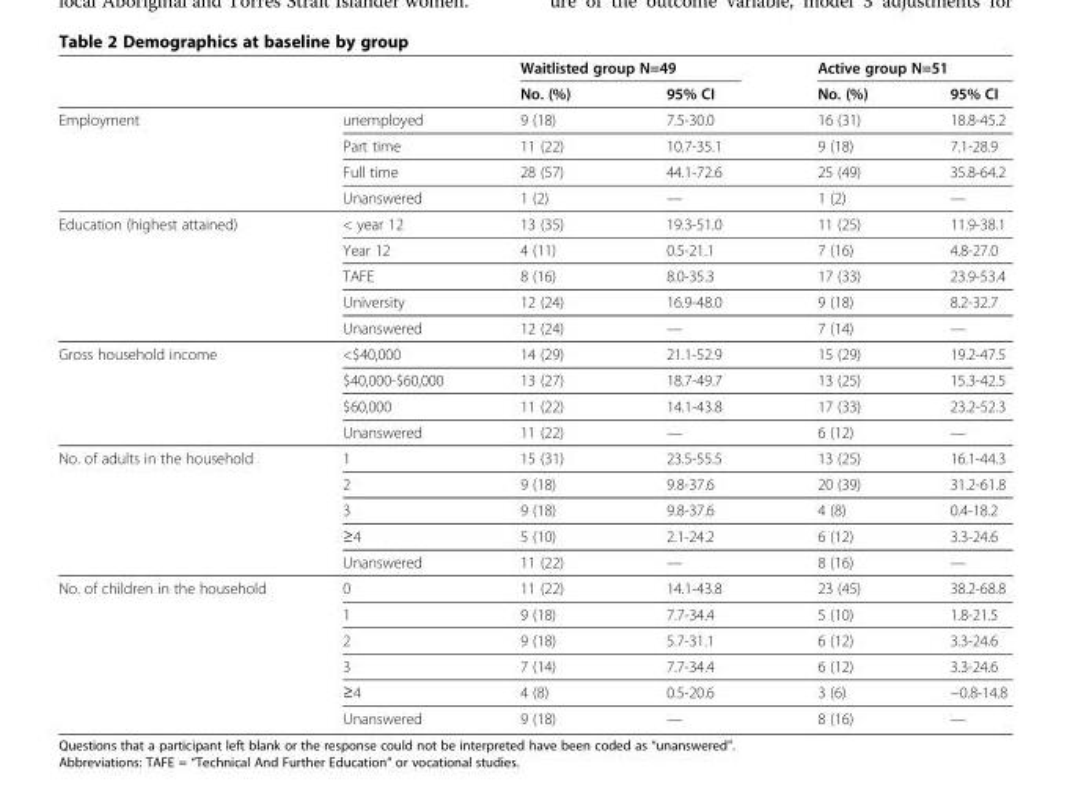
<table><thead><tr><td rowspan="2"></td><td rowspan="2"></td><td colspan="2">Waitlisted group N=49</td><td colspan="2">Active group N=51</td></tr><tr><td>No. (%)</td><td>95% CI</td><td>No. (%)</td><td>95% CI</td></tr></thead><tbody><tr><td rowspan="4">Employment</td><td>unemployed</td><td>9 (18)</td><td>7.5-30.0</td><td>16 (31)</td><td>18.8-45.2</td></tr><tr><td>Part time</td><td>11 (22)</td><td>10.7-35.1</td><td>9 (18)</td><td>7.1-28.9</td></tr><tr><td>Full time</td><td>28 (57)</td><td>44.1-72.6</td><td>25 (49)</td><td>35.8-64.2</td></tr><tr><td>Unanswered</td><td>1 (2)</td><td>—</td><td>1 (2)</td><td>—</td></tr><tr><td rowspan="5">Education (highest attained)</td><td>&lt; year 12</td><td>13 (35)</td><td>19.3-51.0</td><td>11 (25)</td><td>11.9-38.1</td></tr><tr><td>Year 12</td><td>4 (11)</td><td>0.5-21.1</td><td>7 (16)</td><td>4.8-27.0</td></tr><tr><td>TAFE</td><td>8 (16)</td><td>8.0-35.3</td><td>17 (33)</td><td>23.9-53.4</td></tr><tr><td>University</td><td>12 (24)</td><td>16.9-48.0</td><td>9 (18)</td><td>8.2-32.7</td></tr><tr><td>Unanswered</td><td>12 (24)</td><td>—</td><td>7 (14)</td><td>—</td></tr><tr><td rowspan="4">Gross household income</td><td>&lt;$40,000</td><td>14 (29)</td><td>21.1-52.9</td><td>15 (29)</td><td>19.2-47.5</td></tr><tr><td>$40,000-$60,000</td><td>13 (27)</td><td>18.7-49.7</td><td>13 (25)</td><td>15.3-42.5</td></tr><tr><td>$60,000</td><td>11 (22)</td><td>14.1-43.8</td><td>17 (33)</td><td>23.2-52.3</td></tr><tr><td>Unanswered</td><td>11 (22)</td><td>—</td><td>6 (12)</td><td>—</td></tr><tr><td rowspan="5">No. of adults in the household</td><td>1</td><td>15 (31)</td><td>23.5-55.5</td><td>13 (25)</td><td>16.1-44.3</td></tr><tr><td>2</td><td>9 (18)</td><td>9.8-37.6</td><td>20 (39)</td><td>31.2-61.8</td></tr><tr><td>3</td><td>9 (18)</td><td>9.8-37.6</td><td>4 (8)</td><td>0.4-18.2</td></tr><tr><td>≥4</td><td>5 (10)</td><td>2.1-24.2</td><td>6 (12)</td><td>3.3-24.6</td></tr><tr><td>Unanswered</td><td>11 (22)</td><td>—</td><td>8 (16)</td><td>—</td></tr><tr><td rowspan="6">No. of children in the household</td><td>0</td><td>11 (22)</td><td>14.1-43.8</td><td>23 (45)</td><td>38.2-68.8</td></tr><tr><td>1</td><td>9 (18)</td><td>7.7-34.4</td><td>5 (10)</td><td>1.8-21.5</td></tr><tr><td>2</td><td>9 (18)</td><td>5.7-31.1</td><td>6 (12)</td><td>3.3-24.6</td></tr><tr><td>3</td><td>7 (14)</td><td>7.7-34.4</td><td>6 (12)</td><td>3.3-24.6</td></tr><tr><td>≥4</td><td>4 (8)</td><td>0.5-20.6</td><td>3 (6)</td><td>−0.8-14.8</td></tr><tr><td>Unanswered</td><td>9 (18)</td><td>—</td><td>8 (16)</td><td>—</td></tr></tbody></table>